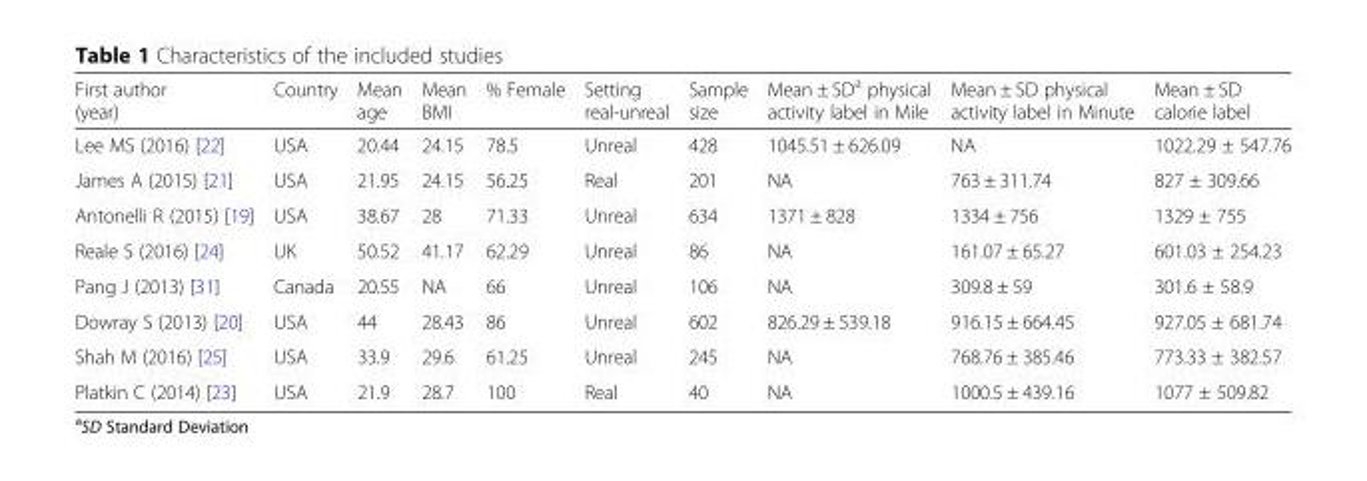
<table><thead><tr><td>First author (year)</td><td>Country</td><td>Mean age</td><td>Mean BMI</td><td>% Female</td><td>Setting real-unreal</td><td>Sample size</td><td>Mean ± SD<sup>a</sup> physical activity label in Mile</td><td>Mean ± SD physical activity label in Minute</td><td>Mean ± SD calorie label</td></tr></thead><tbody><tr><td>Lee MS (2016) [22]</td><td>USA</td><td>20.44</td><td>24.15</td><td>78.5</td><td>Unreal</td><td>428</td><td>1045.51 ± 626.09</td><td>NA</td><td>1022.29 ± 547.76</td></tr><tr><td>James A (2015) [21]</td><td>USA</td><td>21.95</td><td>24.15</td><td>56.25</td><td>Real</td><td>201</td><td>NA</td><td>763 ± 311.74</td><td>827 ± 309.66</td></tr><tr><td>Antonelli R (2015) [19]</td><td>USA</td><td>38.67</td><td>28</td><td>71.33</td><td>Unreal</td><td>634</td><td>1371 ± 828</td><td>1334 ± 756</td><td>1329 ± 755</td></tr><tr><td>Reale S (2016) [24]</td><td>UK</td><td>50.52</td><td>41.17</td><td>62.29</td><td>Unreal</td><td>86</td><td>NA</td><td>161.07 ± 65.27</td><td>601.03 ± 254.23</td></tr><tr><td>Pang J (2013) [31]</td><td>Canada</td><td>20.55</td><td>NA</td><td>66</td><td>Unreal</td><td>106</td><td>NA</td><td>309.8 ± 59</td><td>301.6 ± 58.9</td></tr><tr><td>Dowray S (2013) [20]</td><td>USA</td><td>44</td><td>28.43</td><td>86</td><td>Unreal</td><td>602</td><td>826.29 ± 539.18</td><td>916.15 ± 664.45</td><td>927.05 ± 681.74</td></tr><tr><td>Shah M (2016) [25]</td><td>USA</td><td>33.9</td><td>29.6</td><td>61.25</td><td>Unreal</td><td>245</td><td>NA</td><td>768.76 ± 385.46</td><td>773.33 ± 382.57</td></tr><tr><td>Platkin C (2014) [23]</td><td>USA</td><td>21.9</td><td>28.7</td><td>100</td><td>Real</td><td>40</td><td>NA</td><td>1000.5 ± 439.16</td><td>1077 ± 509.82</td></tr></tbody></table>